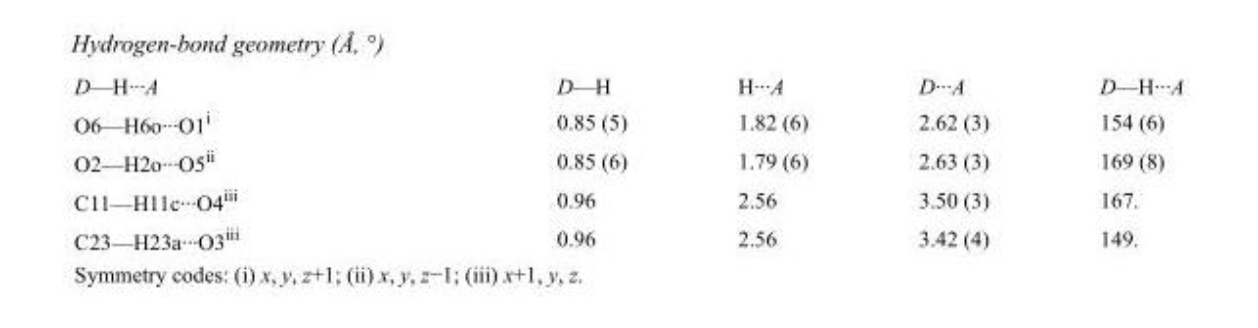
<table><tbody><tr><td>D—H···A</td><td>D—H</td><td>H···A</td><td>D···A</td><td>D—H···A</td></tr><tr><td>O6—H6o···O1<sup>i</sup></td><td>0.85 (5)</td><td>1.82 (6)</td><td>2.62 (3)</td><td>154 (6)</td></tr><tr><td>O2—H2o···O5<sup>ii</sup></td><td>0.85 (6)</td><td>1.79 (6)</td><td>2.63 (3)</td><td>169 (8)</td></tr><tr><td>C11—H11c···O4<sup>iii</sup></td><td>0.96</td><td>2.56</td><td>3.50 (3)</td><td>167.</td></tr><tr><td>C23—H23a···O3<sup>iii</sup></td><td>0.96</td><td>2.56</td><td>3.42 (4)</td><td>149.</td></tr></tbody></table>